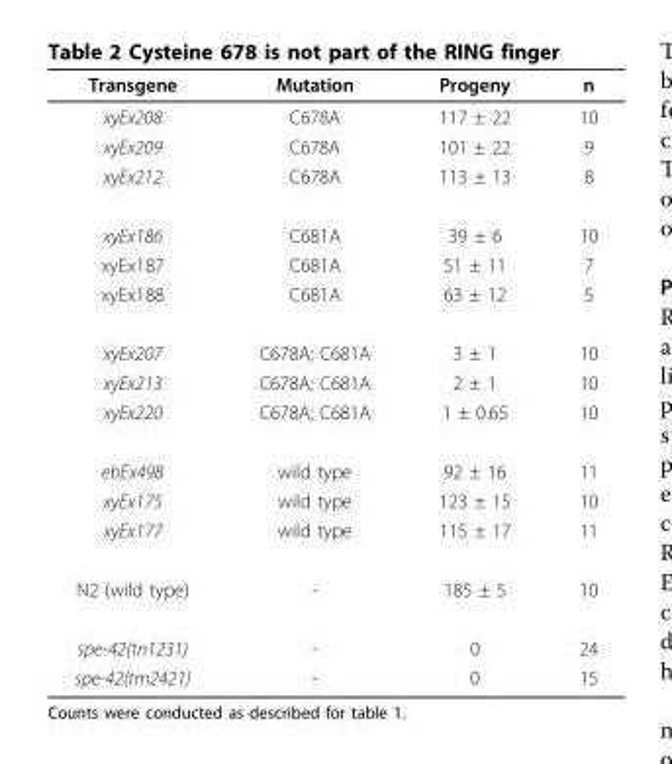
<table><thead><tr><td>Transgene</td><td>Mutation</td><td>Progeny</td><td>n</td></tr></thead><tbody><tr><td>xyEx208</td><td>C678A</td><td>117 ± 22</td><td>10</td></tr><tr><td>xyEx209</td><td>C678A</td><td>101 ± 22</td><td>9</td></tr><tr><td>xyEx212</td><td>C678A</td><td>113 ± 13</td><td>8</td></tr><tr><td>xyEx186</td><td>C681A</td><td>39 ± 6</td><td>10</td></tr><tr><td>xyEx187</td><td>C681A</td><td>51 ± 11</td><td>7</td></tr><tr><td>xyEx188</td><td>C681A</td><td>63 ± 12</td><td>5</td></tr><tr><td>xyEx207</td><td>C678A; C681A</td><td>3 ± 1</td><td>10</td></tr><tr><td>xyEx213</td><td>C678A; C681A</td><td>2 ± 1</td><td>10</td></tr><tr><td>xyEx220</td><td>C678A; C681A</td><td>1 ± 0.65</td><td>10</td></tr><tr><td>ebEx498</td><td>wild type</td><td>92 ± 16</td><td>11</td></tr><tr><td>xyEx175</td><td>wild type</td><td>123 ± 15</td><td>10</td></tr><tr><td>xyEx177</td><td>wild type</td><td>115 ± 17</td><td>11</td></tr><tr><td>N2 (wild type)</td><td>-</td><td>185 ± 5</td><td>10</td></tr><tr><td>spe-42(tn1231)</td><td>-</td><td>0</td><td>24</td></tr><tr><td>spe-42(tm2421)</td><td>-</td><td>0</td><td>15</td></tr></tbody></table>